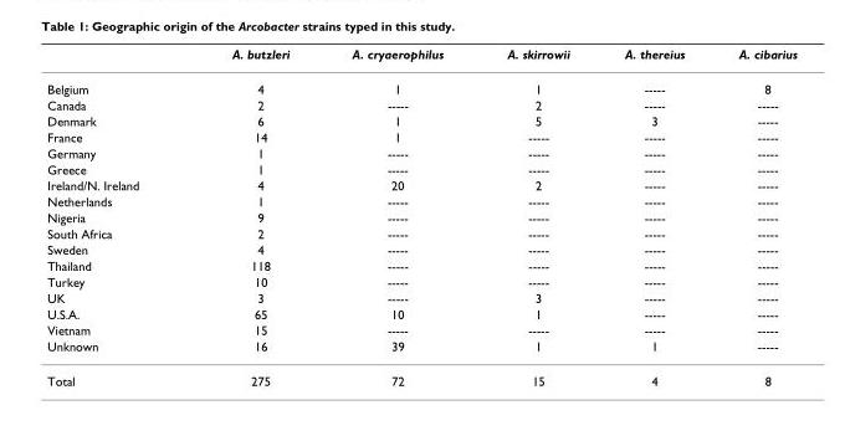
<table><thead><tr><td></td><td>A. butzleri</td><td>A. cryaerophilus</td><td>A. skirrowii</td><td>A. thereius</td><td>A. cibarius</td></tr></thead><tbody><tr><td>Belgium</td><td>4</td><td>1</td><td>1</td><td>-----</td><td>8</td></tr><tr><td>Canada</td><td>2</td><td>-----</td><td>2</td><td>-----</td><td>-----</td></tr><tr><td>Denmark</td><td>6</td><td>1</td><td>5</td><td>3</td><td>-----</td></tr><tr><td>France</td><td>14</td><td>1</td><td>-----</td><td>-----</td><td>-----</td></tr><tr><td>Germany</td><td>1</td><td>-----</td><td>-----</td><td>-----</td><td>-----</td></tr><tr><td>Greece</td><td>1</td><td>-----</td><td>-----</td><td>-----</td><td>-----</td></tr><tr><td>Ireland/N. Ireland</td><td>4</td><td>20</td><td>2</td><td>-----</td><td>-----</td></tr><tr><td>Netherlands</td><td>1</td><td>-----</td><td>-----</td><td>-----</td><td>-----</td></tr><tr><td>Nigeria</td><td>9</td><td>-----</td><td>-----</td><td>-----</td><td>-----</td></tr><tr><td>South Africa</td><td>2</td><td>-----</td><td>-----</td><td>-----</td><td>-----</td></tr><tr><td>Sweden</td><td>4</td><td>-----</td><td>-----</td><td>-----</td><td>-----</td></tr><tr><td>Thailand</td><td>118</td><td>-----</td><td>-----</td><td>-----</td><td>-----</td></tr><tr><td>Turkey</td><td>10</td><td>-----</td><td>-----</td><td>-----</td><td>-----</td></tr><tr><td>UK</td><td>3</td><td>-----</td><td>3</td><td>-----</td><td>-----</td></tr><tr><td>U.S.A.</td><td>65</td><td>10</td><td>1</td><td>-----</td><td>-----</td></tr><tr><td>Vietnam</td><td>15</td><td>-----</td><td>-----</td><td>-----</td><td>-----</td></tr><tr><td>Unknown</td><td>16</td><td>39</td><td>1</td><td>1</td><td>-----</td></tr><tr><td>Total</td><td>275</td><td>72</td><td>15</td><td>4</td><td>8</td></tr></tbody></table>